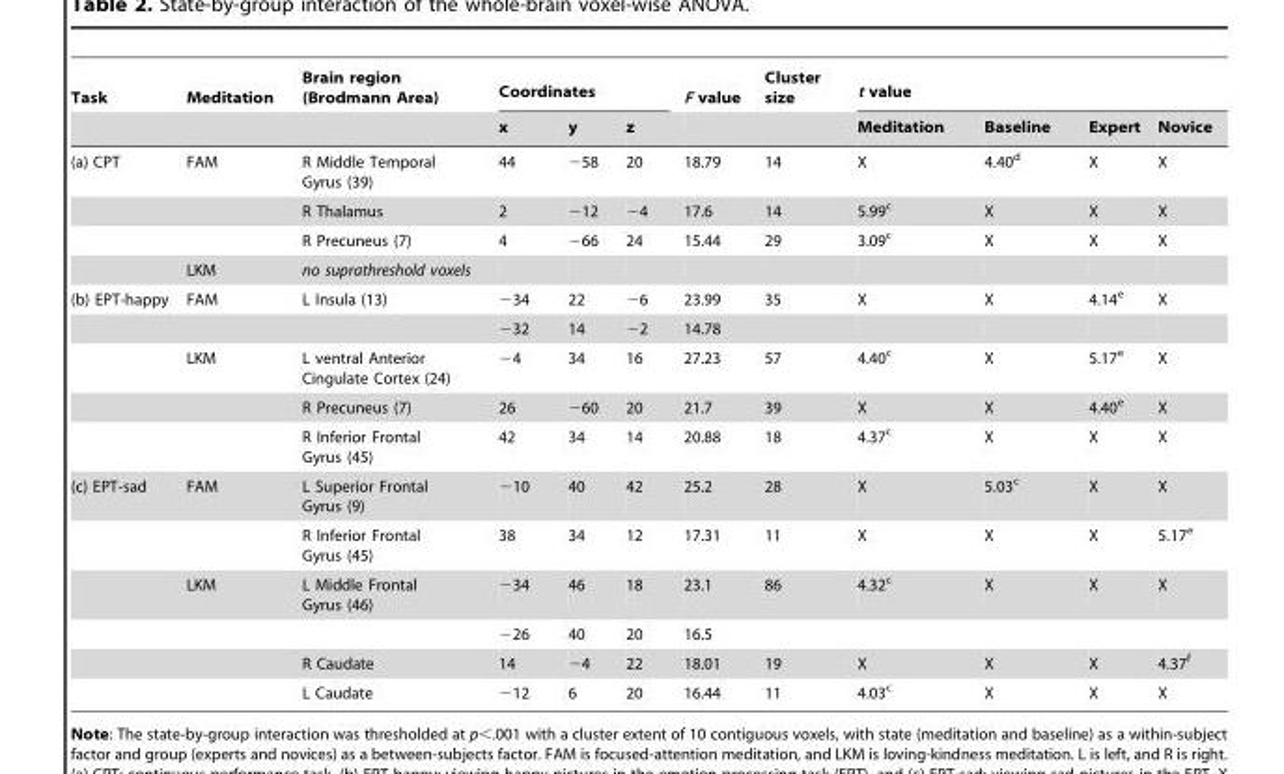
<table><thead><tr><td rowspan="2">Task</td><td rowspan="2">Meditation</td><td rowspan="2">Brain region (Brodmann Area)</td><td colspan="3">Coordinates</td><td rowspan="2">F value</td><td rowspan="2">Cluster size</td><td colspan="4">t value</td></tr><tr><td>x</td><td>y</td><td>z</td><td>Meditation</td><td>Baseline</td><td>Expert</td><td>Novice</td></tr></thead><tbody><tr><td rowspan="4">(a) CPT</td><td>FAM</td><td>R Middle Temporal Gyrus (39)</td><td>44</td><td>−58</td><td>20</td><td>18.79</td><td>14</td><td>X</td><td>4.40<sup>d</sup></td><td>X</td><td>X</td></tr><tr><td></td><td>R Thalamus</td><td>2</td><td>−12</td><td>−4</td><td>17.6</td><td>14</td><td>5.99<sup>c</sup></td><td>X</td><td>X</td><td>X</td></tr><tr><td></td><td>R Precuneus (7)</td><td>4</td><td>−66</td><td>24</td><td>15.44</td><td>29</td><td>3.09<sup>c</sup></td><td>X</td><td>X</td><td>X</td></tr><tr><td>LKM</td><td>no suprathreshold voxels</td><td></td><td></td><td></td><td></td><td></td><td></td><td></td><td></td><td></td></tr><tr><td rowspan="5">(b) EPT-happy</td><td>FAM</td><td>L Insula (13)</td><td>−34</td><td>22</td><td>−6</td><td>23.99</td><td>35</td><td>X</td><td>X</td><td>4.14<sup>e</sup></td><td>X</td></tr><tr><td></td><td></td><td>−32</td><td>14</td><td>−2</td><td>14.78</td><td></td><td></td><td></td><td></td><td></td></tr><tr><td>LKM</td><td>L ventral Anterior Cingulate Cortex (24)</td><td>−4</td><td>34</td><td>16</td><td>27.23</td><td>57</td><td>4.40<sup>c</sup></td><td>X</td><td>5.17<sup>e</sup></td><td>X</td></tr><tr><td></td><td>R Precuneus (7)</td><td>26</td><td>−60</td><td>20</td><td>21.7</td><td>39</td><td>X</td><td>X</td><td>4.40<sup>e</sup></td><td>X</td></tr><tr><td></td><td>R Inferior Frontal Gyrus (45)</td><td>42</td><td>34</td><td>14</td><td>20.88</td><td>18</td><td>4.37<sup>c</sup></td><td>X</td><td>X</td><td>X</td></tr><tr><td rowspan="6">(c) EPT-sad</td><td>FAM</td><td>L Superior Frontal Gyrus (9)</td><td>−10</td><td>40</td><td>42</td><td>25.2</td><td>28</td><td>X</td><td>5.03<sup>c</sup></td><td>X</td><td>X</td></tr><tr><td></td><td>R Inferior Frontal Gyrus (45)</td><td>38</td><td>34</td><td>12</td><td>17.31</td><td>11</td><td>X</td><td>X</td><td>X</td><td>5.17<sup>e</sup></td></tr><tr><td>LKM</td><td>L Middle Frontal Gyrus (46)</td><td>−34</td><td>46</td><td>18</td><td>23.1</td><td>86</td><td>4.32<sup>c</sup></td><td>X</td><td>X</td><td>X</td></tr><tr><td></td><td></td><td>−26</td><td>40</td><td>20</td><td>16.5</td><td></td><td></td><td></td><td></td><td></td></tr><tr><td></td><td>R Caudate</td><td>14</td><td>−4</td><td>22</td><td>18.01</td><td>19</td><td>X</td><td>X</td><td>X</td><td>4.37<sup>f</sup></td></tr><tr><td></td><td>L Caudate</td><td>−12</td><td>6</td><td>20</td><td>16.44</td><td>11</td><td>4.03<sup>c</sup></td><td>X</td><td>X</td><td>X</td></tr></tbody></table>